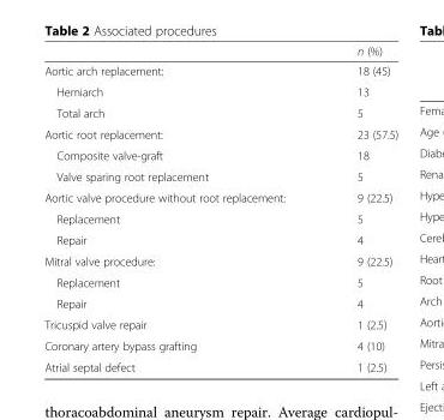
<table><thead><tr><td></td><td>n (%)</td></tr></thead><tbody><tr><td>Aortic arch replacement:</td><td>18 (45)</td></tr><tr><td>Hemiarch</td><td>13</td></tr><tr><td>Total arch</td><td>5</td></tr><tr><td>Aortic root replacement:</td><td>23 (57.5)</td></tr><tr><td>Composite valve-graft</td><td>18</td></tr><tr><td>Valve sparing root replacement</td><td>5</td></tr><tr><td>Aortic valve procedure without root replacement:</td><td>9 (22.5)</td></tr><tr><td>Replacement</td><td>5</td></tr><tr><td>Repair</td><td>4</td></tr><tr><td>Mitral valve procedure:</td><td>9 (22.5)</td></tr><tr><td>Replacement</td><td>5</td></tr><tr><td>Repair</td><td>4</td></tr><tr><td>Tricuspid valve repair</td><td>1 (2.5)</td></tr><tr><td>Coronary artery bypass grafting</td><td>4 (10)</td></tr><tr><td>Atrial septal defect</td><td>1 (2.5)</td></tr></tbody></table>